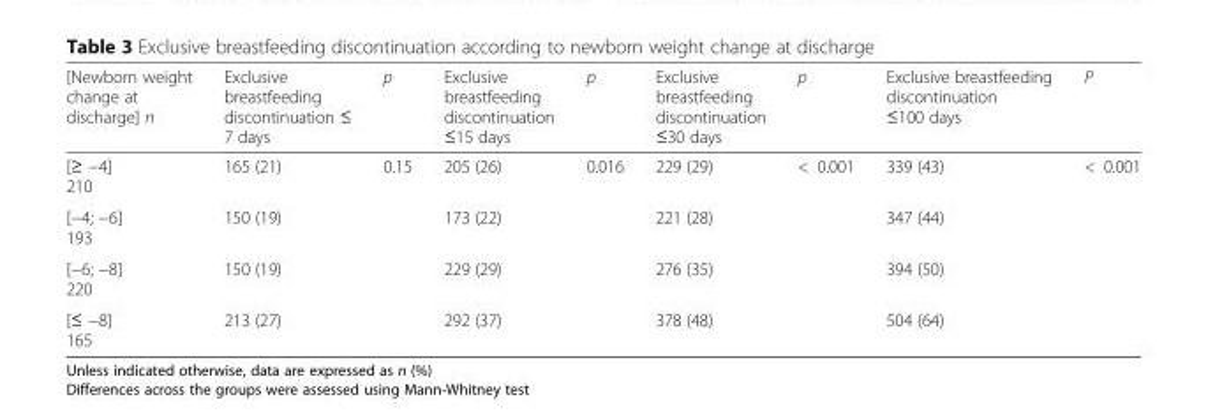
<table><thead><tr><td>[Newborn weight change at discharge] n</td><td>Exclusive breastfeeding discontinuation ≤ 7 days</td><td>p</td><td>Exclusive breastfeeding discontinuation ≤15 days</td><td>p</td><td>Exclusive breastfeeding discontinuation ≤30 days</td><td>p</td><td>Exclusive breastfeeding discontinuation ≤100 days</td><td>P</td></tr></thead><tbody><tr><td>[≥ −4] 210</td><td>165 (21)</td><td rowspan="4">0.15</td><td>205 (26)</td><td rowspan="4">0.016</td><td>229 (29)</td><td rowspan="4">&lt; 0.001</td><td>339 (43)</td><td rowspan="4">&lt; 0.001</td></tr><tr><td>[−4; −6] 193</td><td>150 (19)</td><td>173 (22)</td><td>221 (28)</td><td>347 (44)</td></tr><tr><td>[−6; −8] 220</td><td>150 (19)</td><td>229 (29)</td><td>276 (35)</td><td>394 (50)</td></tr><tr><td>[≤ −8] 165</td><td>213 (27)</td><td>292 (37)</td><td>378 (48)</td><td>504 (64)</td></tr></tbody></table>